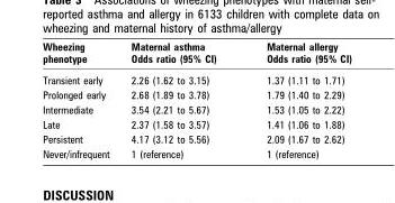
<table><thead><tr><td>Wheezing phenotype</td><td>Maternal asthma Odds ratio (95% CI)</td><td>Maternal allergy Odds ratio (95% CI)</td></tr></thead><tbody><tr><td>Transient early</td><td>2.26 (1.62 to 3.15)</td><td>1.37 (1.11 to 1.71)</td></tr><tr><td>Prolonged early</td><td>2.68 (1.89 to 3.78)</td><td>1.79 (1.40 to 2.29)</td></tr><tr><td>Intermediate</td><td>3.54 (2.21 to 5.67)</td><td>1.53 (1.05 to 2.22)</td></tr><tr><td>Late</td><td>2.37 (1.58 to 3.57)</td><td>1.41 (1.06 to 1.88)</td></tr><tr><td>Persistent</td><td>4.17 (3.12 to 5.56)</td><td>2.09 (1.67 to 2.62)</td></tr><tr><td>Never/infrequent</td><td>1 (reference)</td><td>1 (reference)</td></tr></tbody></table>